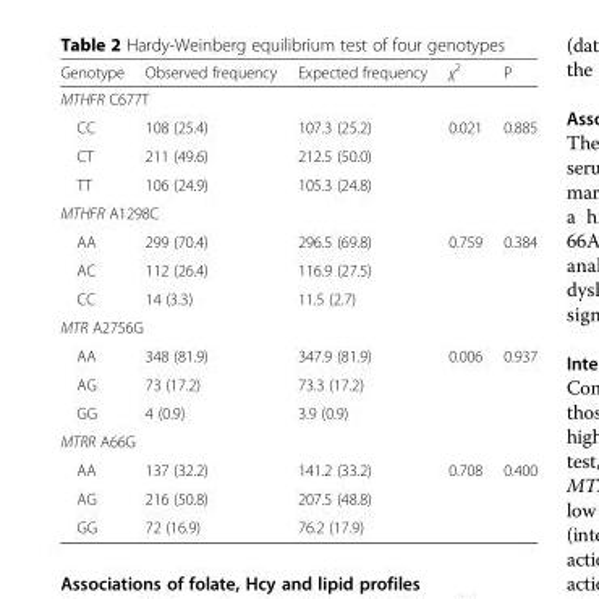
<table><thead><tr><td>Genotype</td><td>Observed frequency</td><td>Expected frequency</td><td>χ<sup>2</sup></td><td>P</td></tr></thead><tbody><tr><td colspan="5">MTHFR C677T</td></tr><tr><td>CC</td><td>108 (25.4)</td><td>107.3 (25.2)</td><td rowspan="3">0.021</td><td rowspan="3">0.885</td></tr><tr><td>CT</td><td>211 (49.6)</td><td>212.5 (50.0)</td></tr><tr><td>TT</td><td>106 (24.9)</td><td>105.3 (24.8)</td></tr><tr><td colspan="5">MTHFR A1298C</td></tr><tr><td>AA</td><td>299 (70.4)</td><td>296.5 (69.8)</td><td rowspan="3">0.759</td><td rowspan="3">0.384</td></tr><tr><td>AC</td><td>112 (26.4)</td><td>116.9 (27.5)</td></tr><tr><td>CC</td><td>14 (3.3)</td><td>11.5 (2.7)</td></tr><tr><td colspan="5">MTR A2756G</td></tr><tr><td>AA</td><td>348 (81.9)</td><td>347.9 (81.9)</td><td rowspan="3">0.006</td><td rowspan="3">0.937</td></tr><tr><td>AG</td><td>73 (17.2)</td><td>73.3 (17.2)</td></tr><tr><td>GG</td><td>4 (0.9)</td><td>3.9 (0.9)</td></tr><tr><td colspan="5">MTRR A66G</td></tr><tr><td>AA</td><td>137 (32.2)</td><td>141.2 (33.2)</td><td rowspan="3">0.708</td><td rowspan="3">0.400</td></tr><tr><td>AG</td><td>216 (50.8)</td><td>207.5 (48.8)</td></tr><tr><td>GG</td><td>72 (16.9)</td><td>76.2 (17.9)</td></tr></tbody></table>